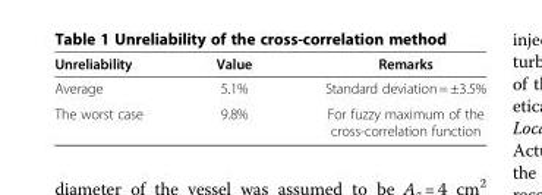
<table><thead><tr><td>Unreliability</td><td>Value</td><td>Remarks</td></tr></thead><tbody><tr><td>Average</td><td>5.1%</td><td>Standard deviation = ±3.5%</td></tr><tr><td>The worst case</td><td>9.8%</td><td>For fuzzy maximum of the cross-correlation function</td></tr></tbody></table>